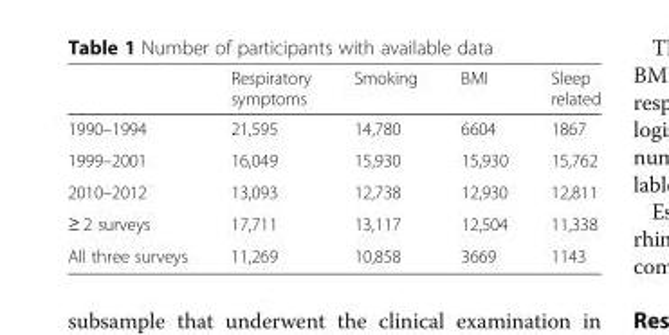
<table><thead><tr><td></td><td>Respiratory symptoms</td><td>Smoking</td><td>BMI</td><td>Sleep related</td></tr></thead><tbody><tr><td>1990–1994</td><td>21,595</td><td>14,780</td><td>6604</td><td>1867</td></tr><tr><td>1999–2001</td><td>16,049</td><td>15,930</td><td>15,930</td><td>15,762</td></tr><tr><td>2010–2012</td><td>13,093</td><td>12,738</td><td>12,930</td><td>12,811</td></tr><tr><td>≥ 2 surveys</td><td>17,711</td><td>13,117</td><td>12,504</td><td>11,338</td></tr><tr><td>All three surveys</td><td>11,269</td><td>10,858</td><td>3669</td><td>1143</td></tr></tbody></table>